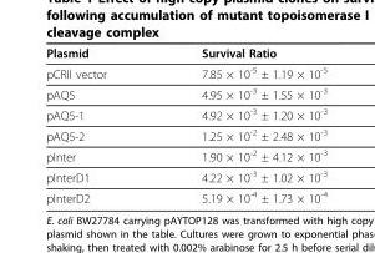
<table><thead><tr><td>Plasmid</td><td>Survival Ratio</td></tr></thead><tbody><tr><td>pCRII vector</td><td>7.85 × 10<sup>-5</sup> ± 1.19 × 10<sup>-5</sup></td></tr><tr><td>pAQ5</td><td>4.95 × 10<sup>-3</sup> ± 1.55 × 10<sup>-3</sup></td></tr><tr><td>pAQ5-1</td><td>4.92 × 10<sup>-3</sup> ± 1.20 × 10<sup>-3</sup></td></tr><tr><td>pAQ5-2</td><td>1.25 × 10<sup>-2</sup> ± 2.48 × 10<sup>-3</sup></td></tr><tr><td>pInter</td><td>1.90 × 10<sup>-2</sup> ± 4.12 × 10<sup>-3</sup></td></tr><tr><td>pInterD1</td><td>4.22 × 10<sup>-3</sup> ± 1.02 × 10<sup>-3</sup></td></tr><tr><td>pInterD2</td><td>5.19 × 10<sup>-4</sup> ± 1.73 × 10<sup>-4</sup></td></tr></tbody></table>